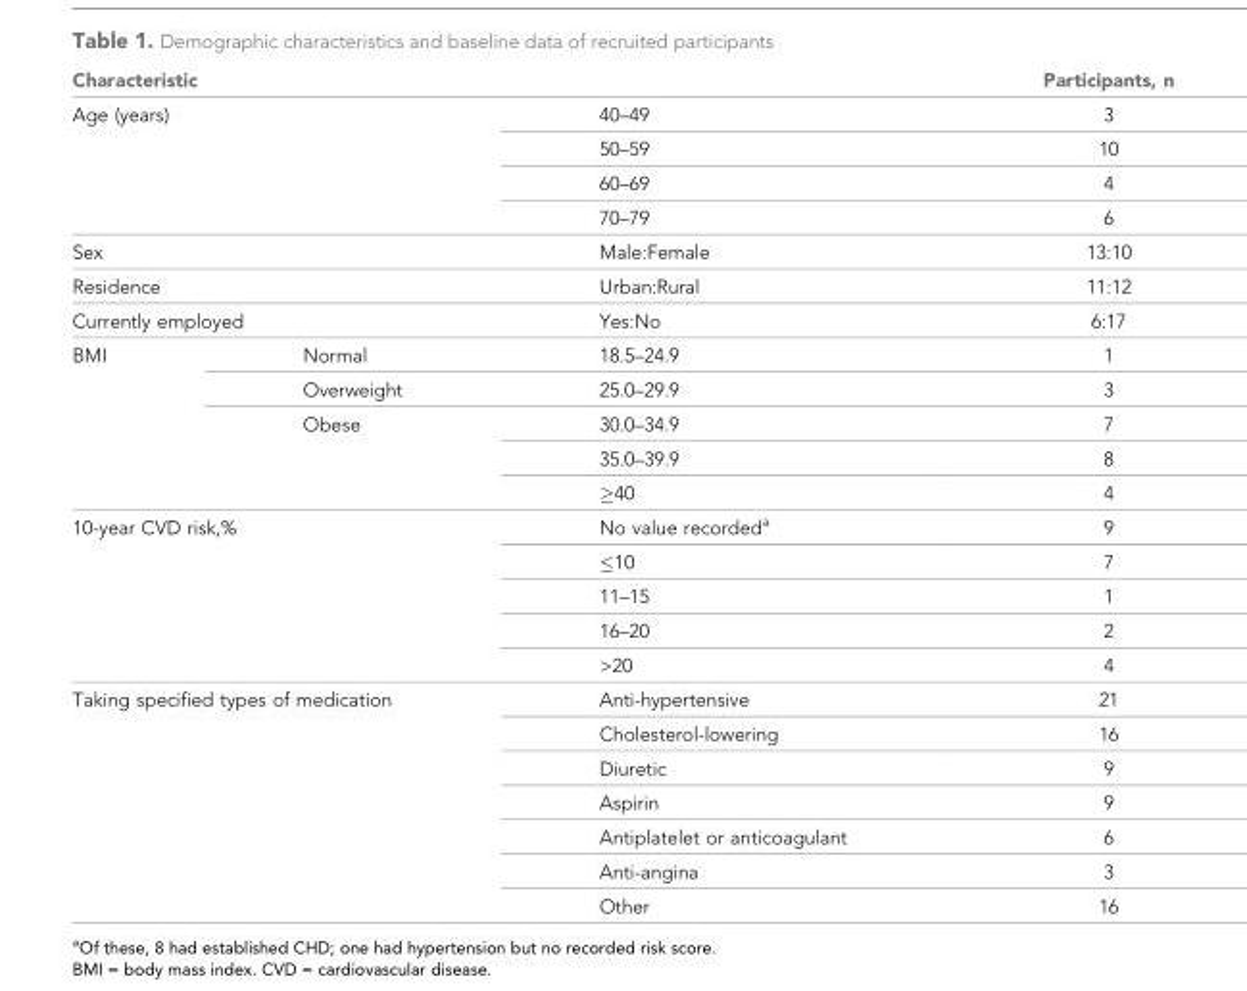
<table><thead><tr><td colspan="3">Characteristic</td><td>Participants, n</td></tr></thead><tbody><tr><td rowspan="4" colspan="2">Age (years)</td><td>40–49</td><td>3</td></tr><tr><td>50–59</td><td>10</td></tr><tr><td>60–69</td><td>4</td></tr><tr><td>70–79</td><td>6</td></tr><tr><td colspan="2">Sex</td><td>Male:Female</td><td>13:10</td></tr><tr><td colspan="2">Residence</td><td>Urban:Rural</td><td>11:12</td></tr><tr><td colspan="2">Currently employed</td><td>Yes:No</td><td>6:17</td></tr><tr><td rowspan="5">BMI</td><td>Normal</td><td>18.5–24.9</td><td>1</td></tr><tr><td>Overweight</td><td>25.0–29.9</td><td>3</td></tr><tr><td rowspan="3">Obese</td><td>30.0–34.9</td><td>7</td></tr><tr><td>35.0–39.9</td><td>8</td></tr><tr><td>≥40</td><td>4</td></tr><tr><td rowspan="5" colspan="2">10-year CVD risk,%</td><td>No value recorded<sup>a</sup></td><td>9</td></tr><tr><td>≤10</td><td>7</td></tr><tr><td>11–15</td><td>1</td></tr><tr><td>16–20</td><td>2</td></tr><tr><td>&gt;20</td><td>4</td></tr><tr><td rowspan="7" colspan="2">Taking specified types of medication</td><td>Anti-hypertensive</td><td>21</td></tr><tr><td>Cholesterol-lowering</td><td>16</td></tr><tr><td>Diuretic</td><td>9</td></tr><tr><td>Aspirin</td><td>9</td></tr><tr><td>Antiplatelet or anticoagulant</td><td>6</td></tr><tr><td>Anti-angina</td><td>3</td></tr><tr><td>Other</td><td>16</td></tr></tbody></table>